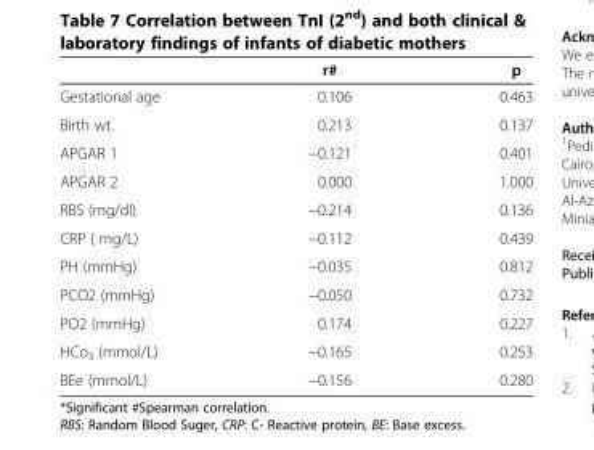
<table><thead><tr><td></td><td>r#</td><td>p</td></tr></thead><tbody><tr><td>Gestational age</td><td>0.106</td><td>0.463</td></tr><tr><td>Birth wt.</td><td>0.213</td><td>0.137</td></tr><tr><td>APGAR 1</td><td>−0.121</td><td>0.401</td></tr><tr><td>APGAR 2</td><td>0.000</td><td>1.000</td></tr><tr><td>RBS (mg/dl)</td><td>−0.214</td><td>0.136</td></tr><tr><td>CRP ( mg/L)</td><td>−0.112</td><td>0.439</td></tr><tr><td>PH (mmHg)</td><td>−0.035</td><td>0.812</td></tr><tr><td>PCO2 (mmHg)</td><td>−0.050</td><td>0.732</td></tr><tr><td>PO2 (mmHg)</td><td>0.174</td><td>0.227</td></tr><tr><td>HCo<sub>3</sub> (mmol/L)</td><td>−0.165</td><td>0.253</td></tr><tr><td>BEe (mmol/L)</td><td>−0.156</td><td>0.280</td></tr></tbody></table>